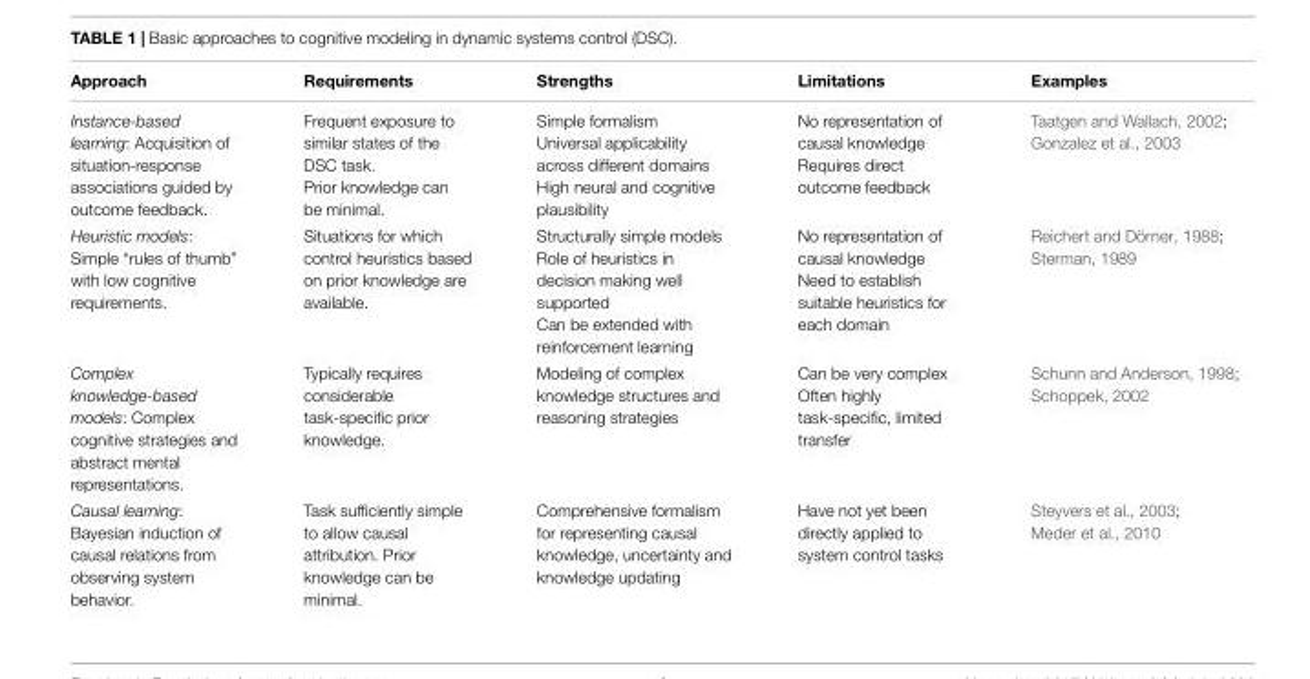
<table><thead><tr><td>Approach</td><td>Requirements</td><td>Strengths</td><td>Limitations</td><td>Examples</td></tr></thead><tbody><tr><td>Instance-based learning: Acquisition of situation-response associations guided by outcome feedback.</td><td>Frequent exposure to similar states of the DSC task. Prior knowledge can be minimal.</td><td>Simple formalism Universal applicability across different domains High neural and cognitive plausibility</td><td>No representation of causal knowledge Requires direct outcome feedback</td><td>Taatgen and Wallach, 2002; Gonzalez et al., 2003</td></tr><tr><td>Heuristic models: Simple “rules of thumb” with low cognitive requirements.</td><td>Situations for which control heuristics based on prior knowledge are available.</td><td>Structurally simple models Role of heuristics in decision making well supported Can be extended with reinforcement learning</td><td>No representation of causal knowledge Need to establish suitable heuristics for each domain</td><td>Reichert and Dörner, 1988; Sterman, 1989</td></tr><tr><td>Complex knowledge-based models: Complex cognitive strategies and abstract mental representations.</td><td>Typically requires considerable task-specific prior knowledge.</td><td>Modeling of complex knowledge structures and reasoning strategies</td><td>Can be very complex Often highly task-specific, limited transfer</td><td>Schunn and Anderson, 1998; Schoppek, 2002</td></tr><tr><td>Causal learning: Bayesian induction of causal relations from observing system behavior.</td><td>Task sufficiently simple to allow causal attribution. Prior knowledge can be minimal.</td><td>Comprehensive formalism for representing causal knowledge, uncertainty and knowledge updating</td><td>Have not yet been directly applied to system control tasks</td><td>Steyvers et al., 2003; Meder et al., 2010</td></tr></tbody></table>